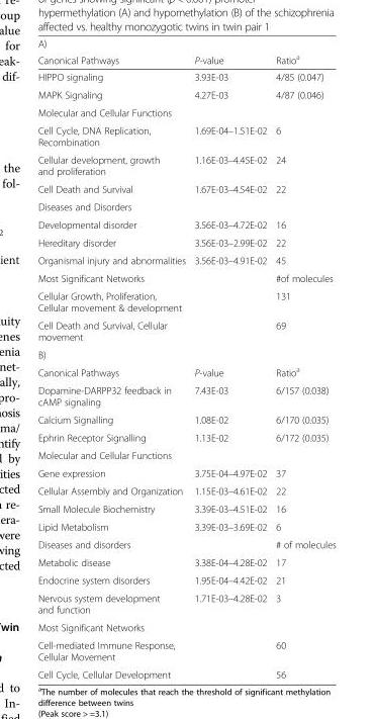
<table><thead><tr><td colspan="3">A)</td></tr><tr><td>Canonical Pathways</td><td>P-value</td><td>Ratio<sup>a</sup></td></tr></thead><tbody><tr><td>HIPPO signaling</td><td>3.93E-03</td><td>4/85 (0.047)</td></tr><tr><td>MAPK Signaling</td><td>4.27E-03</td><td>4/87 (0.046)</td></tr><tr><td colspan="3">Molecular and Cellular Functions</td></tr><tr><td>Cell Cycle, DNA Replication, Recombination</td><td>1.69E-04–1.51E-02</td><td>6</td></tr><tr><td>Cellular development, growth and proliferation</td><td>1.16E-03–4.45E-02</td><td>24</td></tr><tr><td>Cell Death and Survival</td><td>1.67E-03–4.54E-02</td><td>22</td></tr><tr><td colspan="3">Diseases and Disorders</td></tr><tr><td>Developmental disorder</td><td>3.56E-03–4.72E-02</td><td>16</td></tr><tr><td>Hereditary disorder</td><td>3.56E-03–2.99E-02</td><td>22</td></tr><tr><td>Organismal injury and abnormalities</td><td>3.56E-03–4.91E-02</td><td>45</td></tr><tr><td>Most Significant Networks</td><td></td><td>#of molecules</td></tr><tr><td>Cellular Growth, Proliferation, Cellular movement &amp; development</td><td></td><td>131</td></tr><tr><td>Cell Death and Survival, Cellular movement</td><td></td><td>69</td></tr><tr><td colspan="3">B)</td></tr><tr><td>Canonical Pathways</td><td>P-value</td><td>Ratio<sup>a</sup></td></tr><tr><td>Dopamine-DARPP32 feedback in cAMP signaling</td><td>7.43E-03</td><td>6/157 (0.038)</td></tr><tr><td>Calcium Signalling</td><td>1.08E-02</td><td>6/170 (0.035)</td></tr><tr><td>Ephrin Receptor Signalling</td><td>1.13E-02</td><td>6/172 (0.035)</td></tr><tr><td colspan="3">Molecular and Cellular Functions</td></tr><tr><td>Gene expression</td><td>3.75E-04–4.97E-02</td><td>37</td></tr><tr><td>Cellular Assembly and Organization</td><td>1.15E-03–4.61E-02</td><td>22</td></tr><tr><td>Small Molecule Biochemistry</td><td>3.39E-03–4.51E-02</td><td>16</td></tr><tr><td>Lipid Metabolism</td><td>3.39E-03–3.69E-02</td><td>6</td></tr><tr><td>Diseases and disorders</td><td></td><td># of molecules</td></tr><tr><td>Metabolic disease</td><td>3.38E-04–4.28E-02</td><td>17</td></tr><tr><td>Endocrine system disorders</td><td>1.95E-04–4.42E-02</td><td>21</td></tr><tr><td>Nervous system development and function</td><td>1.71E-03–4.28E-02</td><td>3</td></tr><tr><td colspan="3">Most Significant Networks</td></tr><tr><td>Cell-mediated Immune Response, Cellular Movement</td><td></td><td>60</td></tr><tr><td>Cell Cycle, Cellular Development</td><td></td><td>56</td></tr></tbody></table>